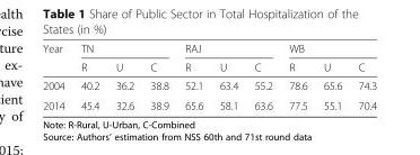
<table><thead><tr><td rowspan="2">Year</td><td colspan="3">TN</td><td colspan="3">RAJ</td><td colspan="3">WB</td></tr><tr><td>R</td><td>U</td><td>C</td><td>R</td><td>U</td><td>C</td><td>R</td><td>U</td><td>C</td></tr></thead><tbody><tr><td>2004</td><td>40.2</td><td>36.2</td><td>38.8</td><td>52.1</td><td>63.4</td><td>55.2</td><td>78.6</td><td>65.6</td><td>74.3</td></tr><tr><td>2014</td><td>45.4</td><td>32.6</td><td>38.9</td><td>65.6</td><td>58.1</td><td>63.6</td><td>77.5</td><td>55.1</td><td>70.4</td></tr></tbody></table>